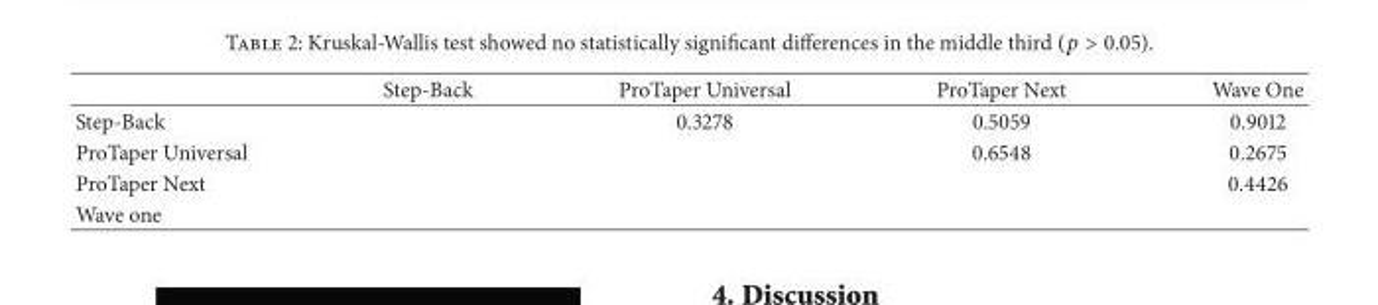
<table><thead><tr><td></td><td>Step-Back</td><td>ProTaper Universal</td><td>ProTaper Next</td><td>Wave One</td></tr></thead><tbody><tr><td>Step-Back</td><td></td><td>0.3278</td><td>0.5059</td><td>0.9012</td></tr><tr><td>ProTaper Universal</td><td></td><td></td><td>0.6548</td><td>0.2675</td></tr><tr><td>ProTaper Next</td><td></td><td></td><td></td><td>0.4426</td></tr><tr><td>Wave one</td><td></td><td></td><td></td><td></td></tr></tbody></table>